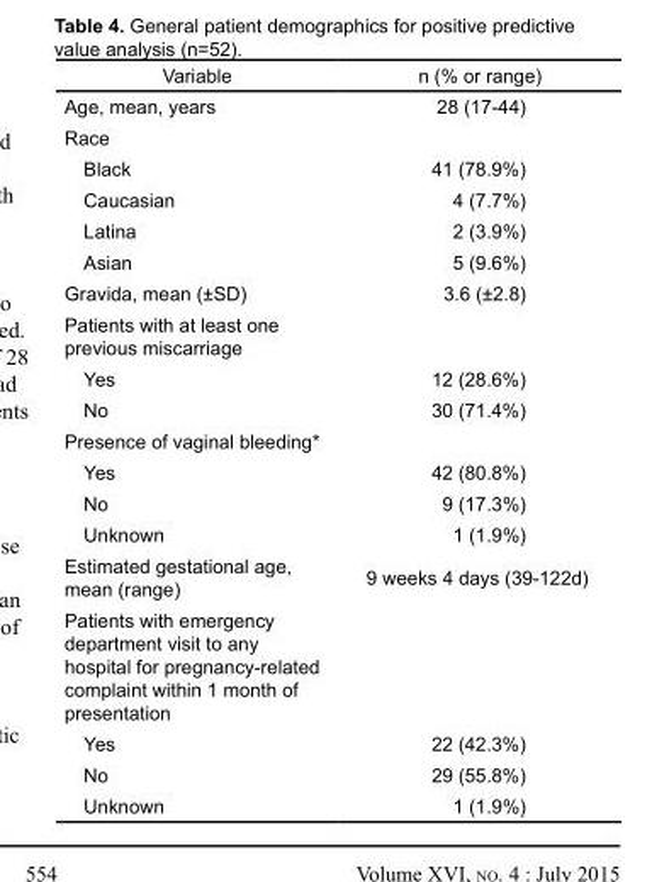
<table><thead><tr><td>Variable</td><td>n (% or range)</td></tr></thead><tbody><tr><td>Age, mean, years</td><td>28 (17-44)</td></tr><tr><td colspan="2">Race</td></tr><tr><td>Black</td><td>41 (78.9%)</td></tr><tr><td>Caucasian</td><td>4 (7.7%)</td></tr><tr><td>Latina</td><td>2 (3.9%)</td></tr><tr><td>Asian</td><td>5 (9.6%)</td></tr><tr><td>Gravida, mean (±SD)</td><td>3.6 (±2.8)</td></tr><tr><td colspan="2">Patients with at least one previous miscarriage</td></tr><tr><td>Yes</td><td>12 (28.6%)</td></tr><tr><td>No</td><td>30 (71.4%)</td></tr><tr><td colspan="2">Presence of vaginal bleeding*</td></tr><tr><td>Yes</td><td>42 (80.8%)</td></tr><tr><td>No</td><td>9 (17.3%)</td></tr><tr><td>Unknown</td><td>1 (1.9%)</td></tr><tr><td>Estimated gestational age, mean (range)</td><td>9 weeks 4 days (39-122d)</td></tr><tr><td colspan="2">Patients with emergency department visit to any hospital for pregnancy-related complaint within 1 month of presentation</td></tr><tr><td>Yes</td><td>22 (42.3%)</td></tr><tr><td>No</td><td>29 (55.8%)</td></tr><tr><td>Unknown</td><td>1 (1.9%)</td></tr></tbody></table>